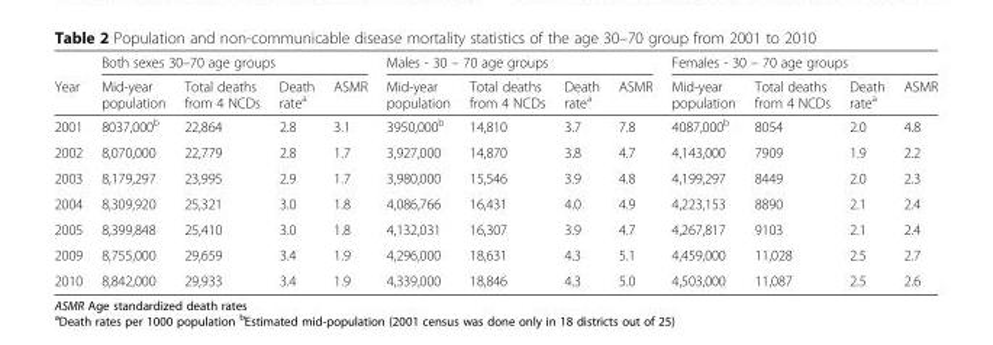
<table><thead><tr><td rowspan="2">Year</td><td colspan="4">Both sexes 30–70 age groups</td><td colspan="4">Males - 30 – 70 age groups</td><td colspan="4">Females - 30 – 70 age groups</td></tr><tr><td>Mid-year population</td><td>Total deaths from 4 NCDs</td><td>Death rate<sup>a</sup></td><td>ASMR</td><td>Mid-year population</td><td>Total deaths from 4 NCDs</td><td>Death rate<sup>a</sup></td><td>ASMR</td><td>Mid-year population</td><td>Total deaths from 4 NCDs</td><td>Death rate<sup>a</sup></td><td>ASMR</td></tr></thead><tbody><tr><td>2001</td><td>8037,000<sup>b</sup></td><td>22,864</td><td>2.8</td><td>3.1</td><td>3950,000<sup>b</sup></td><td>14,810</td><td>3.7</td><td>7.8</td><td>4087,000<sup>b</sup></td><td>8054</td><td>2.0</td><td>4.8</td></tr><tr><td>2002</td><td>8,070,000</td><td>22,779</td><td>2.8</td><td>1.7</td><td>3,927,000</td><td>14,870</td><td>3.8</td><td>4.7</td><td>4,143,000</td><td>7909</td><td>1.9</td><td>2.2</td></tr><tr><td>2003</td><td>8,179,297</td><td>23,995</td><td>2.9</td><td>1.7</td><td>3,980,000</td><td>15,546</td><td>3.9</td><td>4.8</td><td>4,199,297</td><td>8449</td><td>2.0</td><td>2.3</td></tr><tr><td>2004</td><td>8,309,920</td><td>25,321</td><td>3.0</td><td>1.8</td><td>4,086,766</td><td>16,431</td><td>4.0</td><td>4.9</td><td>4,223,153</td><td>8890</td><td>2.1</td><td>2.4</td></tr><tr><td>2005</td><td>8,399,848</td><td>25,410</td><td>3.0</td><td>1.8</td><td>4,132,031</td><td>16,307</td><td>3.9</td><td>4.7</td><td>4,267,817</td><td>9103</td><td>2.1</td><td>2.4</td></tr><tr><td>2009</td><td>8,755,000</td><td>29,659</td><td>3.4</td><td>1.9</td><td>4,296,000</td><td>18,631</td><td>4.3</td><td>5.1</td><td>4,459,000</td><td>11,028</td><td>2.5</td><td>2.7</td></tr><tr><td>2010</td><td>8,842,000</td><td>29,933</td><td>3.4</td><td>1.9</td><td>4,339,000</td><td>18,846</td><td>4.3</td><td>5.0</td><td>4,503,000</td><td>11,087</td><td>2.5</td><td>2.6</td></tr></tbody></table>